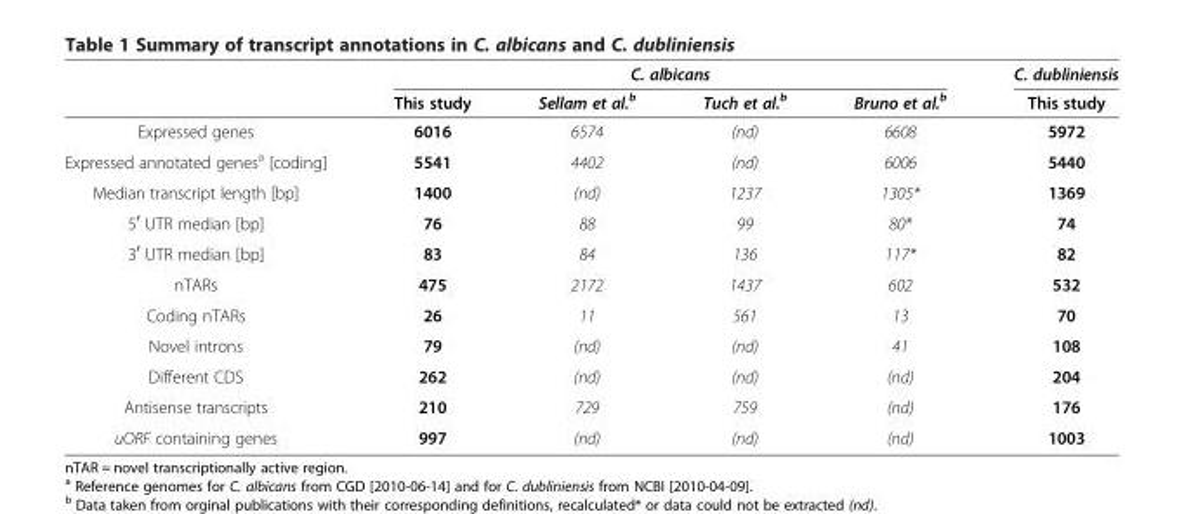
<table><thead><tr><td rowspan="2"></td><td colspan="4">C. albicans</td><td rowspan="2">C. dubliniensis This study</td></tr><tr><td>This study</td><td>Sellam et al.<sup>b</sup></td><td>Tuch et al.<sup>b</sup></td><td>Bruno et al.<sup>b</sup></td></tr></thead><tbody><tr><td>Expressed genes</td><td>6016</td><td>6574</td><td>(nd)</td><td>6608</td><td>5972</td></tr><tr><td>Expressed annotated genes<sup>a</sup> [coding]</td><td>5541</td><td>4402</td><td>(nd)</td><td>6006</td><td>5440</td></tr><tr><td>Median transcript length [bp]</td><td>1400</td><td>(nd)</td><td>1237</td><td>1305*</td><td>1369</td></tr><tr><td>5<sup>′</sup> UTR median [bp]</td><td>76</td><td>88</td><td>99</td><td>80*</td><td>74</td></tr><tr><td>3<sup>′</sup> UTR median [bp]</td><td>83</td><td>84</td><td>136</td><td>117*</td><td>82</td></tr><tr><td>nTARs</td><td>475</td><td>2172</td><td>1437</td><td>602</td><td>532</td></tr><tr><td>Coding nTARs</td><td>26</td><td>11</td><td>561</td><td>13</td><td>70</td></tr><tr><td>Novel introns</td><td>79</td><td>(nd)</td><td>(nd)</td><td>41</td><td>108</td></tr><tr><td>Different CDS</td><td>262</td><td>(nd)</td><td>(nd)</td><td>(nd)</td><td>204</td></tr><tr><td>Antisense transcripts</td><td>210</td><td>729</td><td>759</td><td>(nd)</td><td>176</td></tr><tr><td>uORF containing genes</td><td>997</td><td>(nd)</td><td>(nd)</td><td>(nd)</td><td>1003</td></tr></tbody></table>